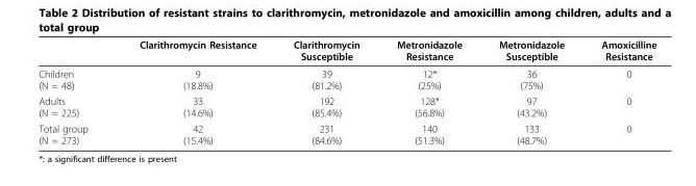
<table><thead><tr><td></td><td>Clarithromycin Resistance</td><td>Clarithromycin Susceptible</td><td>Metronidazole Resistance</td><td>Metronidazole Susceptible</td><td>Amoxicilline Resistance</td></tr></thead><tbody><tr><td>Children (N = 48)</td><td>9 (18.8%)</td><td>39 (81.2%)</td><td>12* (25%)</td><td>36 (75%)</td><td>0</td></tr><tr><td>Adults (N = 225)</td><td>33 (14.6%)</td><td>192 (85.4%)</td><td>128* (56.8%)</td><td>97 (43.2%)</td><td>0</td></tr><tr><td>Total group (N = 273)</td><td>42 (15.4%)</td><td>231 (84.6%)</td><td>140 (51.3%)</td><td>133 (48.7%)</td><td>0</td></tr></tbody></table>